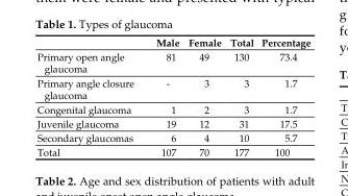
<table><thead><tr><td></td><td>Male</td><td>Female</td><td>Total</td><td>Percentage</td></tr></thead><tbody><tr><td>Primary open angle glaucoma</td><td>81</td><td>49</td><td>130</td><td>73.4</td></tr><tr><td>Primary angle closure glaucoma</td><td>-</td><td>3</td><td>3</td><td>1.7</td></tr><tr><td>Congenital glaucoma</td><td>1</td><td>2</td><td>3</td><td>1.7</td></tr><tr><td>Juvenile glaucoma</td><td>19</td><td>12</td><td>31</td><td>17.5</td></tr><tr><td>Secondary glaucomas</td><td>6</td><td>4</td><td>10</td><td>5.7</td></tr><tr><td>Total</td><td>107</td><td>70</td><td>177</td><td>100</td></tr></tbody></table>